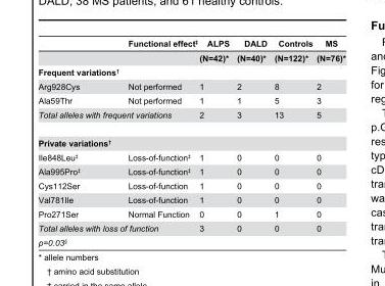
<table><thead><tr><td></td><td>Functional effect<sup>‡</sup></td><td>ALPS</td><td>DALD</td><td>Controls</td><td>MS</td></tr></thead><tbody><tr><td></td><td></td><td>(N=42)*</td><td>(N=40)*</td><td>(N=122)*</td><td>(N=76)*</td></tr><tr><td colspan="6">Frequent variations<sup>†</sup></td></tr><tr><td>Arg928Cys</td><td>Not performed</td><td>1</td><td>2</td><td>8</td><td>2</td></tr><tr><td>Ala59Thr</td><td>Not performed</td><td>1</td><td>1</td><td>5</td><td>3</td></tr><tr><td colspan="2">Total alleles with frequent variations</td><td>2</td><td>3</td><td>13</td><td>5</td></tr><tr><td colspan="6">Private variations<sup>†</sup></td></tr><tr><td>Ile848Leu<sup>‡</sup></td><td>Loss-of-function<sup>‡</sup></td><td>1</td><td>0</td><td>0</td><td>0</td></tr><tr><td>Ala995Pro<sup>‡</sup></td><td>Loss-of-function<sup>‡</sup></td><td>1</td><td>0</td><td>0</td><td>0</td></tr><tr><td>Cys112Ser</td><td>Loss-of-function</td><td>1</td><td>0</td><td>0</td><td>0</td></tr><tr><td>Val781Ile</td><td>Loss-of-function</td><td>1</td><td>0</td><td>0</td><td>0</td></tr><tr><td>Pro271Ser</td><td>Normal Function</td><td>0</td><td>0</td><td>1</td><td>0</td></tr><tr><td colspan="2">Total alleles with loss of function</td><td>3</td><td>0</td><td>0</td><td>0</td></tr><tr><td colspan="2">p=0.03<sup>§</sup></td><td></td><td></td><td></td><td></td></tr></tbody></table>